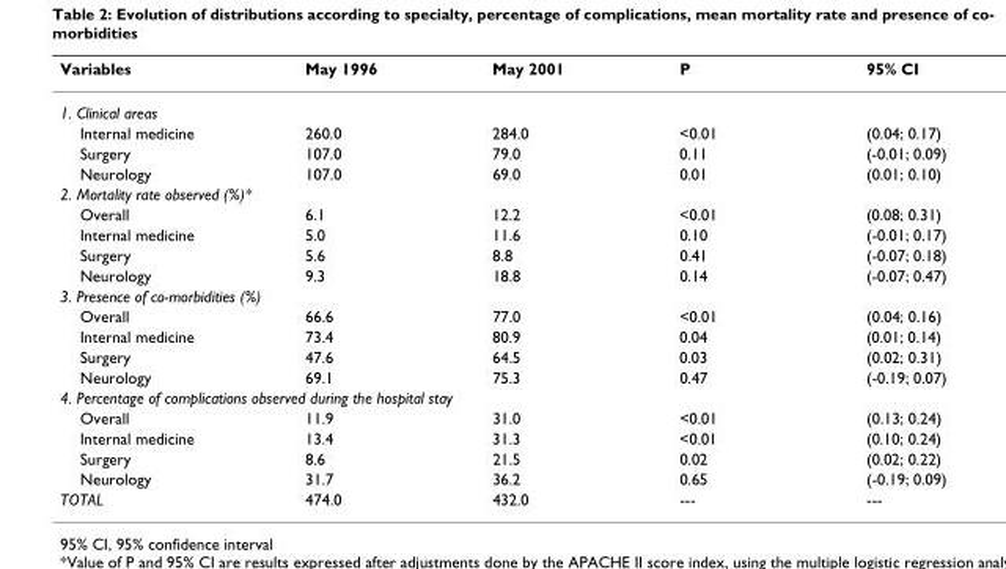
<table><thead><tr><td>Variables</td><td>May 1996</td><td>May 2001</td><td>P</td><td>95% CI</td></tr></thead><tbody><tr><td colspan="5">1. Clinical areas</td></tr><tr><td>Internal medicine</td><td>260.0</td><td>284.0</td><td>&lt;0.01</td><td>(0.04; 0.17)</td></tr><tr><td>Surgery</td><td>107.0</td><td>79.0</td><td>0.11</td><td>(-0.01; 0.09)</td></tr><tr><td>Neurology</td><td>107.0</td><td>69.0</td><td>0.01</td><td>(0.01; 0.10)</td></tr><tr><td colspan="5">2. Mortality rate observed (%)*</td></tr><tr><td>Overall</td><td>6.1</td><td>12.2</td><td>&lt;0.01</td><td>(0.08; 0.31)</td></tr><tr><td>Internal medicine</td><td>5.0</td><td>11.6</td><td>0.10</td><td>(-0.01; 0.17)</td></tr><tr><td>Surgery</td><td>5.6</td><td>8.8</td><td>0.41</td><td>(-0.07; 0.18)</td></tr><tr><td>Neurology</td><td>9.3</td><td>18.8</td><td>0.14</td><td>(-0.07; 0.47)</td></tr><tr><td colspan="5">3. Presence of co-morbidities (%)</td></tr><tr><td>Overall</td><td>66.6</td><td>77.0</td><td>&lt;0.01</td><td>(0.04; 0.16)</td></tr><tr><td>Internal medicine</td><td>73.4</td><td>80.9</td><td>0.04</td><td>(0.01; 0.14)</td></tr><tr><td>Surgery</td><td>47.6</td><td>64.5</td><td>0.03</td><td>(0.02; 0.31)</td></tr><tr><td>Neurology</td><td>69.1</td><td>75.3</td><td>0.47</td><td>(-0.19; 0.07)</td></tr><tr><td colspan="5">4. Percentage of complications observed during the hospital stay</td></tr><tr><td>Overall</td><td>11.9</td><td>31.0</td><td>&lt;0.01</td><td>(0.13; 0.24)</td></tr><tr><td>Internal medicine</td><td>13.4</td><td>31.3</td><td>&lt;0.01</td><td>(0.10; 0.24)</td></tr><tr><td>Surgery</td><td>8.6</td><td>21.5</td><td>0.02</td><td>(0.02; 0.22)</td></tr><tr><td>Neurology</td><td>31.7</td><td>36.2</td><td>0.65</td><td>(-0.19; 0.09)</td></tr><tr><td>TOTAL</td><td>474.0</td><td>432.0</td><td>---</td><td>---</td></tr></tbody></table>